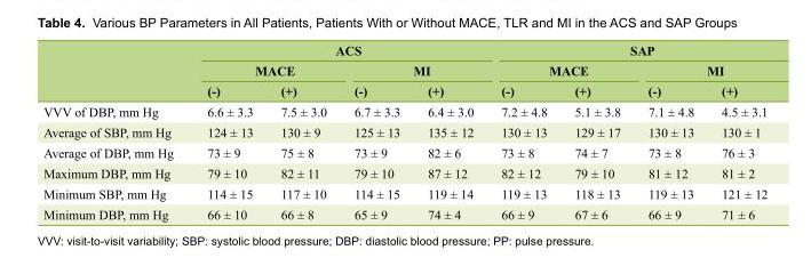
<table><thead><tr><td rowspan="3"></td><td colspan="4">ACS</td><td colspan="4">SAP</td></tr><tr><td colspan="2">MACE</td><td colspan="2">MI</td><td colspan="2">MACE</td><td colspan="2">MI</td></tr><tr><td>(-)</td><td>(+)</td><td>(-)</td><td>(+)</td><td>(-)</td><td>(+)</td><td>(-)</td><td>(+)</td></tr></thead><tbody><tr><td>VVV of DBP, mm Hg</td><td>6.6 ± 3.3</td><td>7.5 ± 3.0</td><td>6.7 ± 3.3</td><td>6.4 ± 3.0</td><td>7.2 ± 4.8</td><td>5.1 ± 3.8</td><td>7.1 ± 4.8</td><td>4.5 ± 3.1</td></tr><tr><td>Average of SBP, mm Hg</td><td>124 ± 13</td><td>130 ± 9</td><td>125 ± 13</td><td>135 ± 12</td><td>130 ± 13</td><td>129 ± 17</td><td>130 ± 13</td><td>130 ± 1</td></tr><tr><td>Average of DBP, mm Hg</td><td>73 ± 9</td><td>75 ± 8</td><td>73 ± 9</td><td>82 ± 6</td><td>73 ± 8</td><td>74 ± 7</td><td>73 ± 8</td><td>76 ± 3</td></tr><tr><td>Maximum DBP, mm Hg</td><td>79 ± 10</td><td>82 ± 11</td><td>79 ± 10</td><td>87 ± 12</td><td>82 ± 12</td><td>79 ± 10</td><td>81 ± 12</td><td>81 ± 2</td></tr><tr><td>Minimum SBP, mm Hg</td><td>114 ± 15</td><td>117 ± 10</td><td>114 ± 15</td><td>119 ± 14</td><td>119 ± 13</td><td>118 ± 13</td><td>119 ± 13</td><td>121 ± 12</td></tr><tr><td>Minimum DBP, mm Hg</td><td>66 ± 10</td><td>66 ± 8</td><td>65 ± 9</td><td>74 ± 4</td><td>66 ± 9</td><td>67 ± 6</td><td>66 ± 9</td><td>71 ± 6</td></tr></tbody></table>